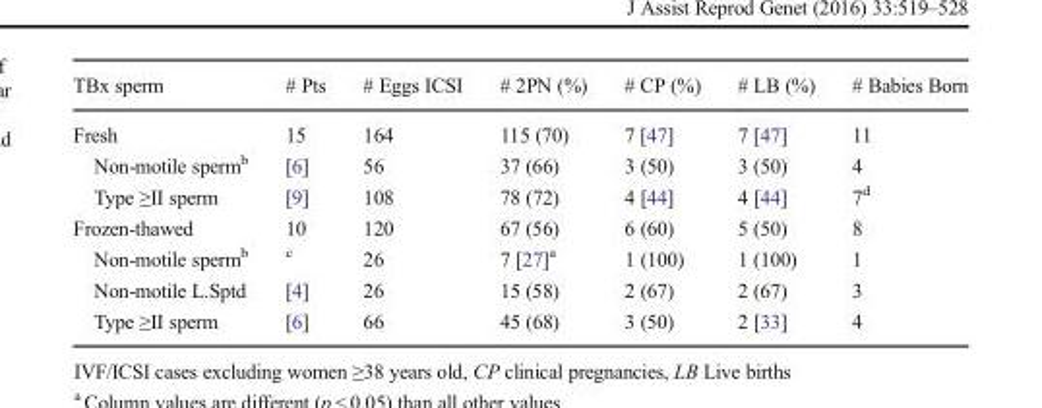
<table><thead><tr><td>TBx sperm</td><td># Pts</td><td># Eggs ICSI</td><td># 2PN (%)</td><td># CP (%)</td><td># LB (%)</td><td># Babies Born</td></tr></thead><tbody><tr><td>Fresh</td><td>15</td><td>164</td><td>115 (70)</td><td>7 [47]</td><td>7 [47]</td><td>11</td></tr><tr><td>Non-motile sperm<sup>b</sup></td><td>[6]</td><td>56</td><td>37 (66)</td><td>3 (50)</td><td>3 (50)</td><td>4</td></tr><tr><td>Type ≥II sperm</td><td>[9]</td><td>108</td><td>78 (72)</td><td>4 [44]</td><td>4 [44]</td><td>7<sup>d</sup></td></tr><tr><td>Frozen-thawed</td><td>10</td><td>120</td><td>67 (56)</td><td>6 (60)</td><td>5 (50)</td><td>8</td></tr><tr><td>Non-motile sperm<sup>b</sup></td><td><sup>c</sup></td><td>26</td><td>7 [27]<sup>a</sup></td><td>1 (100)</td><td>1 (100)</td><td>1</td></tr><tr><td>Non-motile L.Sptd</td><td>[4]</td><td>26</td><td>15 (58)</td><td>2 (67)</td><td>2 (67)</td><td>3</td></tr><tr><td>Type ≥II sperm</td><td>[6]</td><td>66</td><td>45 (68)</td><td>3 (50)</td><td>2 [33]</td><td>4</td></tr></tbody></table>